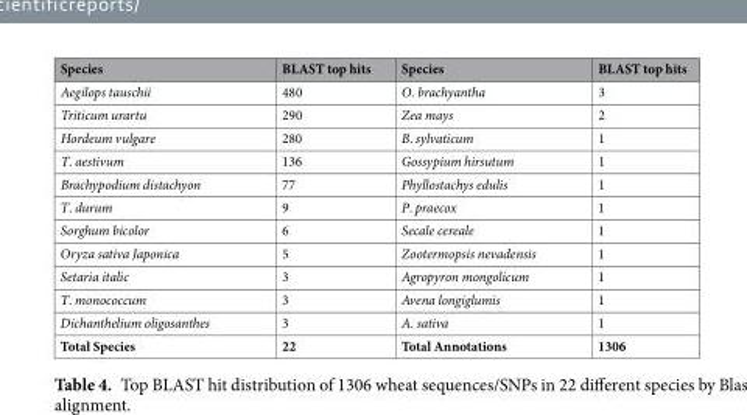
<table><thead><tr><td>Species</td><td>BLAST top hits</td><td>Species</td><td>BLAST top hits</td></tr></thead><tbody><tr><td>Aegilops tauschii</td><td>480</td><td>O. brachyantha</td><td>3</td></tr><tr><td>Triticum urartu</td><td>290</td><td>Zea mays</td><td>2</td></tr><tr><td>Hordeum vulgare</td><td>280</td><td>B. sylvaticum</td><td>1</td></tr><tr><td>T. aestivum</td><td>136</td><td>Gossypium hirsutum</td><td>1</td></tr><tr><td>Brachypodium distachyon</td><td>77</td><td>Phyllostachys edulis</td><td>1</td></tr><tr><td>T. durum</td><td>9</td><td>P. praecox</td><td>1</td></tr><tr><td>Sorghum bicolor</td><td>6</td><td>Secale cereale</td><td>1</td></tr><tr><td>Oryza sativa Japonica</td><td>5</td><td>Zootermopsis nevadensis</td><td>1</td></tr><tr><td>Setaria italic</td><td>3</td><td>Agropyron mongolicum</td><td>1</td></tr><tr><td>T. monococcum</td><td>3</td><td>Avena longiglumis</td><td>1</td></tr><tr><td>Dichanthelium oligosanthes</td><td>3</td><td>A. sativa</td><td>1</td></tr><tr><td>Total Species</td><td>22</td><td>Total Annotations</td><td>1306</td></tr></tbody></table>